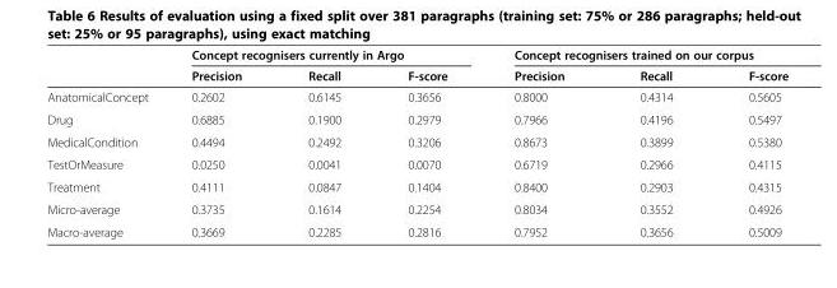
<table><thead><tr><td rowspan="2"></td><td colspan="3">Concept recognisers currently in Argo</td><td colspan="3">Concept recognisers trained on our corpus</td></tr><tr><td>Precision</td><td>Recall</td><td>F-score</td><td>Precision</td><td>Recall</td><td>F-score</td></tr></thead><tbody><tr><td>AnatomicalConcept</td><td>0.2602</td><td>0.6145</td><td>0.3656</td><td>0.8000</td><td>0.4314</td><td>0.5605</td></tr><tr><td>Drug</td><td>0.6885</td><td>0.1900</td><td>0.2979</td><td>0.7966</td><td>0.4196</td><td>0.5497</td></tr><tr><td>MedicalCondition</td><td>0.4494</td><td>0.2492</td><td>0.3206</td><td>0.8673</td><td>0.3899</td><td>0.5380</td></tr><tr><td>TestOrMeasure</td><td>0.0250</td><td>0.0041</td><td>0.0070</td><td>0.6719</td><td>0.2966</td><td>0.4115</td></tr><tr><td>Treatment</td><td>0.4111</td><td>0.0847</td><td>0.1404</td><td>0.8400</td><td>0.2903</td><td>0.4315</td></tr><tr><td>Micro-average</td><td>0.3735</td><td>0.1614</td><td>0.2254</td><td>0.8034</td><td>0.3552</td><td>0.4926</td></tr><tr><td>Macro-average</td><td>0.3669</td><td>0.2285</td><td>0.2816</td><td>0.7952</td><td>0.3656</td><td>0.5009</td></tr></tbody></table>